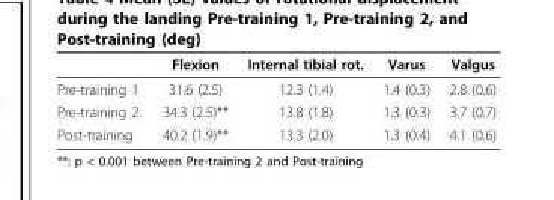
<table><thead><tr><td></td><td>Flexion</td><td>Internal tibial rot.</td><td>Varus</td><td>Valgus</td></tr></thead><tbody><tr><td>Pre-training 1</td><td>31.6 (2.5)</td><td>12.3 (1.4)</td><td>1.4 (0.3)</td><td>2.8 (0.6)</td></tr><tr><td>Pre-training 2</td><td>34.3 (2.5)**</td><td>13.8 (1.8)</td><td>1.3 (0.3)</td><td>3.7 (0.7)</td></tr><tr><td>Post-training</td><td>40.2 (1.9)**</td><td>13.3 (2.0)</td><td>1.3 (0.4)</td><td>4.1 (0.6)</td></tr></tbody></table>